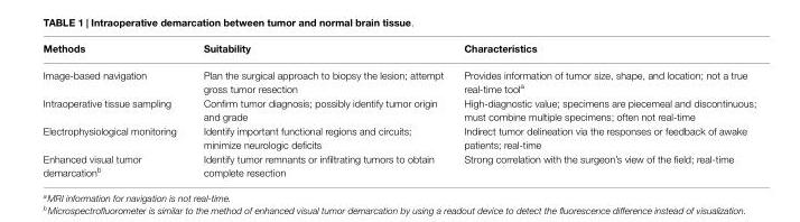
<table><thead><tr><td>Methods</td><td>Suitability</td><td>Characteristics</td></tr></thead><tbody><tr><td>Image-based navigation</td><td>Plan the surgical approach to biopsy the lesion; attempt gross tumor resection</td><td>Provides information of tumor size, shape, and location; not a true real-time tool<sup>a</sup></td></tr><tr><td>Intraoperative tissue sampling</td><td>Confirm tumor diagnosis; possibly identify tumor origin and grade</td><td>High-diagnostic value; specimens are piecemeal and discontinuous; must combine multiple specimens; often not real-time</td></tr><tr><td>Electrophysiological monitoring</td><td>Identify important functional regions and circuits; minimize neurologic deficits</td><td>Indirect tumor delineation via the responses or feedback of awake patients; real-time</td></tr><tr><td>Enhanced visual tumor demarcation<sup>b</sup></td><td>Identify tumor remnants or infiltrating tumors to obtain complete resection</td><td>Strong correlation with the surgeon’s view of the field; real-time</td></tr></tbody></table>